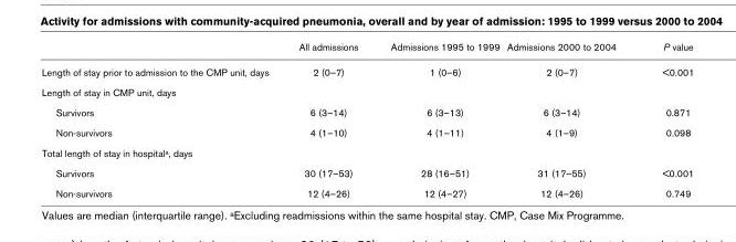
<table><thead><tr><td></td><td>All admissions</td><td>Admissions 1995 to 1999</td><td>Admissions 2000 to 2004</td><td>P value</td></tr></thead><tbody><tr><td>Length of stay prior to admission to the CMP unit, days</td><td>2 (0–7)</td><td>1 (0–6)</td><td>2 (0–7)</td><td>&lt;0.001</td></tr><tr><td colspan="5">Length of stay in CMP unit, days</td></tr><tr><td>Survivors</td><td>6 (3–14)</td><td>6 (3–13)</td><td>6 (3–14)</td><td>0.871</td></tr><tr><td>Non-survivors</td><td>4 (1–10)</td><td>4 (1–11)</td><td>4 (1–9)</td><td>0.098</td></tr><tr><td colspan="5">Total length of stay in hospital<sup>a</sup>, days</td></tr><tr><td>Survivors</td><td>30 (17–53)</td><td>28 (16–51)</td><td>31 (17–55)</td><td>&lt;0.001</td></tr><tr><td>Non-survivors</td><td>12 (4–26)</td><td>12 (4–27)</td><td>12 (4–26)</td><td>0.749</td></tr></tbody></table>